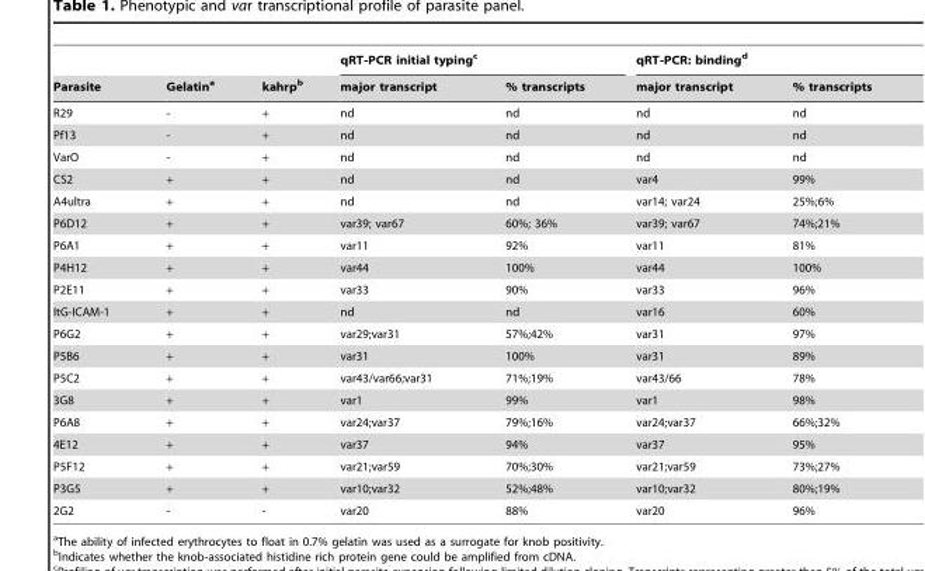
<table><thead><tr><td rowspan="2">Parasite</td><td rowspan="2">Gelatin<sup>a</sup></td><td rowspan="2">kahrp<sup>b</sup></td><td colspan="2">qRT-PCR initial typing<sup>c</sup></td><td colspan="2">qRT-PCR: binding<sup>d</sup></td></tr><tr><td>major transcript</td><td>% transcripts</td><td>major transcript</td><td>% transcripts</td></tr></thead><tbody><tr><td>R29</td><td>-</td><td>+</td><td>nd</td><td>nd</td><td>nd</td><td>nd</td></tr><tr><td>Pf13</td><td>-</td><td>+</td><td>nd</td><td>nd</td><td>nd</td><td>nd</td></tr><tr><td>VarO</td><td>-</td><td>+</td><td>nd</td><td>nd</td><td>nd</td><td>nd</td></tr><tr><td>CS2</td><td>+</td><td>+</td><td>nd</td><td>nd</td><td>var4</td><td>99%</td></tr><tr><td>A4ultra</td><td>+</td><td>+</td><td>nd</td><td>nd</td><td>var14; var24</td><td>25%;6%</td></tr><tr><td>P6D12</td><td>+</td><td>+</td><td>var39; var67</td><td>60%; 36%</td><td>var39; var67</td><td>74%;21%</td></tr><tr><td>P6A1</td><td>+</td><td>+</td><td>var11</td><td>92%</td><td>var11</td><td>81%</td></tr><tr><td>P4H12</td><td>+</td><td>+</td><td>var44</td><td>100%</td><td>var44</td><td>100%</td></tr><tr><td>P2E11</td><td>+</td><td>+</td><td>var33</td><td>90%</td><td>var33</td><td>96%</td></tr><tr><td>ItG-ICAM-1</td><td>+</td><td>+</td><td>nd</td><td>nd</td><td>var16</td><td>60%</td></tr><tr><td>P6G2</td><td>+</td><td>+</td><td>var29;var31</td><td>57%;42%</td><td>var31</td><td>97%</td></tr><tr><td>P5B6</td><td>+</td><td>+</td><td>var31</td><td>100%</td><td>var31</td><td>89%</td></tr><tr><td>P5C2</td><td>+</td><td>+</td><td>var43/var66;var31</td><td>71%;19%</td><td>var43/66</td><td>78%</td></tr><tr><td>3G8</td><td>+</td><td>+</td><td>var1</td><td>99%</td><td>var1</td><td>98%</td></tr><tr><td>P6A8</td><td>+</td><td>+</td><td>var24;var37</td><td>79%;16%</td><td>var24;var37</td><td>66%;32%</td></tr><tr><td>4E12</td><td>+</td><td>+</td><td>var37</td><td>94%</td><td>var37</td><td>95%</td></tr><tr><td>P5F12</td><td>+</td><td>+</td><td>var21;var59</td><td>70%;30%</td><td>var21;var59</td><td>73%;27%</td></tr><tr><td>P3G5</td><td>+</td><td>+</td><td>var10;var32</td><td>52%;48%</td><td>var10;var32</td><td>80%;19%</td></tr><tr><td>2G2</td><td>-</td><td>-</td><td>var20</td><td>88%</td><td>var20</td><td>96%</td></tr></tbody></table>